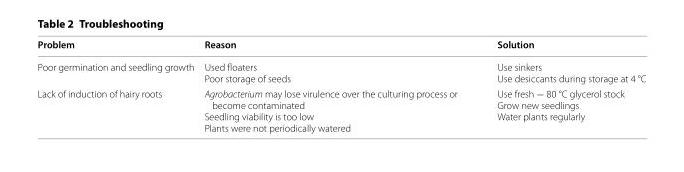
<table><thead><tr><td>Problem</td><td>Reason</td><td>Solution</td></tr></thead><tbody><tr><td>Poor germination and seedling growth</td><td>Used floaters Poor storage of seeds</td><td>Use sinkers Use desiccants during storage at 4 °C</td></tr><tr><td>Lack of induction of hairy roots</td><td>Agrobacterium may lose virulence over the culturing process or become contaminated Seedling viability is too low Plants were not periodically watered</td><td>Use fresh − 80 °C glycerol stock Grow new seedlings Water plants regularly</td></tr></tbody></table>